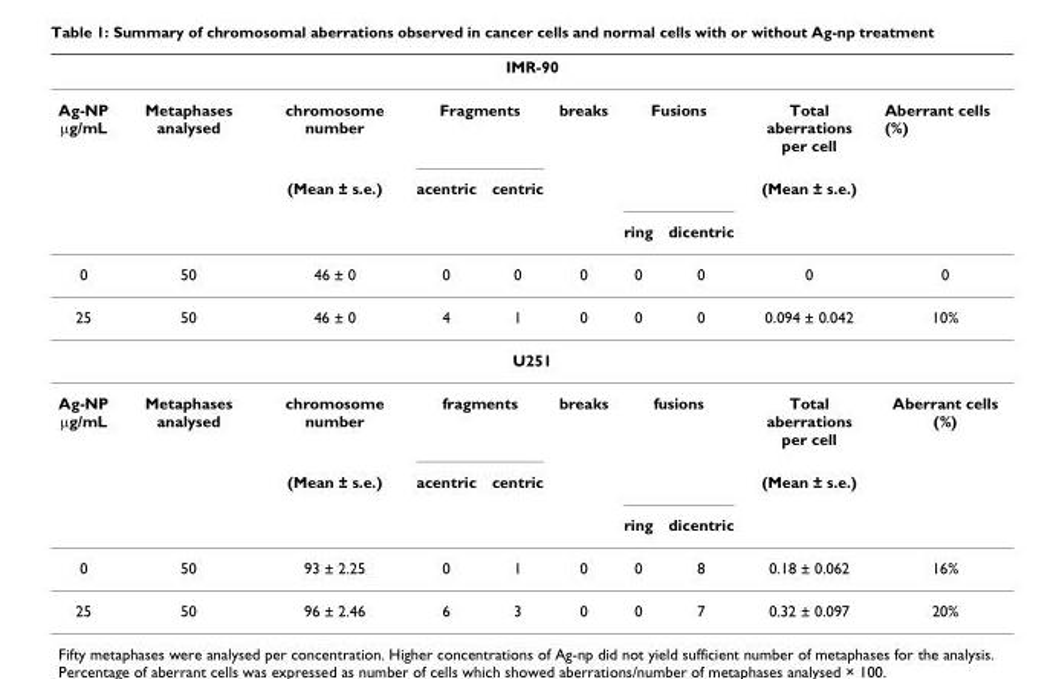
<table><thead><tr><td colspan="10">IMR-90</td></tr><tr><td rowspan="2">Ag-NP μg/mL</td><td rowspan="2">Metaphases analysed</td><td rowspan="2">chromosome number (Mean ± s.e.)</td><td colspan="2">Fragments</td><td rowspan="2">breaks</td><td colspan="2">Fusions</td><td rowspan="2">Total aberrations per cell (Mean ± s.e.)</td><td rowspan="2">Aberrant cells (%)</td></tr><tr><td>acentric</td><td>centric</td><td></td><td></td></tr></thead><tbody><tr><td></td><td></td><td></td><td></td><td></td><td></td><td>ring</td><td>dicentric</td><td></td><td></td></tr><tr><td>0</td><td>50</td><td>46 ± 0</td><td>0</td><td>0</td><td>0</td><td>0</td><td>0</td><td>0</td><td>0</td></tr><tr><td>25</td><td>50</td><td>46 ± 0</td><td>4</td><td>1</td><td>0</td><td>0</td><td>0</td><td>0.094 ± 0.042</td><td>10%</td></tr><tr><td colspan="10">U251</td></tr><tr><td rowspan="3">Ag-NP μg/mL</td><td>Metaphases analysed</td><td>chromosome number</td><td colspan="2">fragments</td><td>breaks</td><td colspan="2">fusions</td><td>Total aberrations per cell</td><td>Aberrant cells (%)</td></tr><tr><td></td><td>(Mean ± s.e.)</td><td>acentric</td><td>centric</td><td></td><td></td><td></td><td>(Mean ± s.e.)</td><td></td></tr><tr><td></td><td></td><td></td><td></td><td></td><td>ring</td><td>dicentric</td><td></td><td></td></tr><tr><td>0</td><td>50</td><td>93 ± 2.25</td><td>0</td><td>1</td><td>0</td><td>0</td><td>8</td><td>0.18 ± 0.062</td><td>16%</td></tr><tr><td>25</td><td>50</td><td>96 ± 2.46</td><td>6</td><td>3</td><td>0</td><td>0</td><td>7</td><td>0.32 ± 0.097</td><td>20%</td></tr></tbody></table>